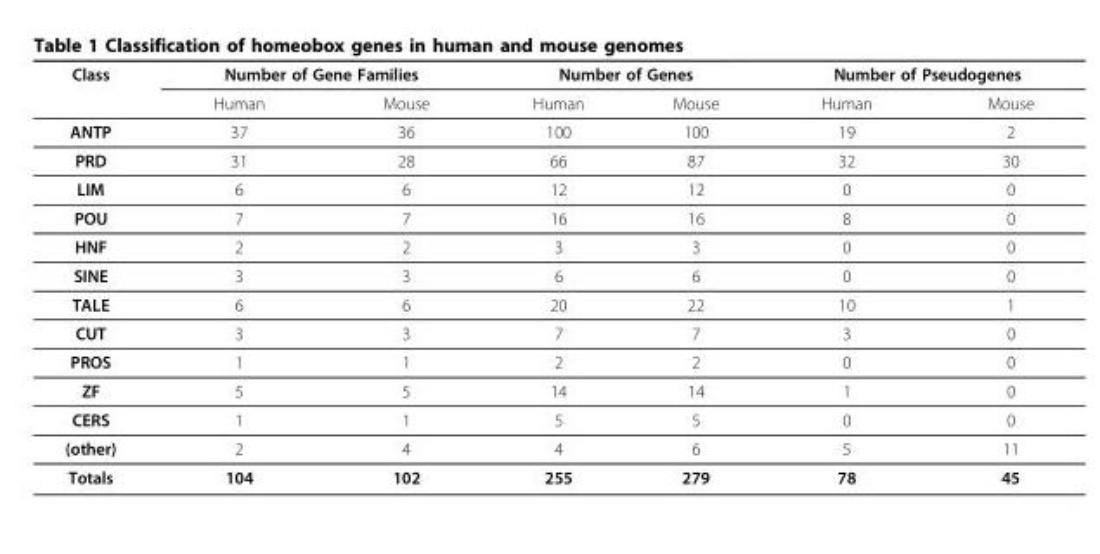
<table><thead><tr><td rowspan="2">Class</td><td colspan="2">Number of Gene Families</td><td colspan="2">Number of Genes</td><td colspan="2">Number of Pseudogenes</td></tr><tr><td>Human</td><td>Mouse</td><td>Human</td><td>Mouse</td><td>Human</td><td>Mouse</td></tr></thead><tbody><tr><td>ANTP</td><td>37</td><td>36</td><td>100</td><td>100</td><td>19</td><td>2</td></tr><tr><td>PRD</td><td>31</td><td>28</td><td>66</td><td>87</td><td>32</td><td>30</td></tr><tr><td>LIM</td><td>6</td><td>6</td><td>12</td><td>12</td><td>0</td><td>0</td></tr><tr><td>POU</td><td>7</td><td>7</td><td>16</td><td>16</td><td>8</td><td>0</td></tr><tr><td>HNF</td><td>2</td><td>2</td><td>3</td><td>3</td><td>0</td><td>0</td></tr><tr><td>SINE</td><td>3</td><td>3</td><td>6</td><td>6</td><td>0</td><td>0</td></tr><tr><td>TALE</td><td>6</td><td>6</td><td>20</td><td>22</td><td>10</td><td>1</td></tr><tr><td>CUT</td><td>3</td><td>3</td><td>7</td><td>7</td><td>3</td><td>0</td></tr><tr><td>PROS</td><td>1</td><td>1</td><td>2</td><td>2</td><td>0</td><td>0</td></tr><tr><td>ZF</td><td>5</td><td>5</td><td>14</td><td>14</td><td>1</td><td>0</td></tr><tr><td>CERS</td><td>1</td><td>1</td><td>5</td><td>5</td><td>0</td><td>0</td></tr><tr><td>(other)</td><td>2</td><td>4</td><td>4</td><td>6</td><td>5</td><td>11</td></tr><tr><td>Totals</td><td>104</td><td>102</td><td>255</td><td>279</td><td>78</td><td>45</td></tr></tbody></table>